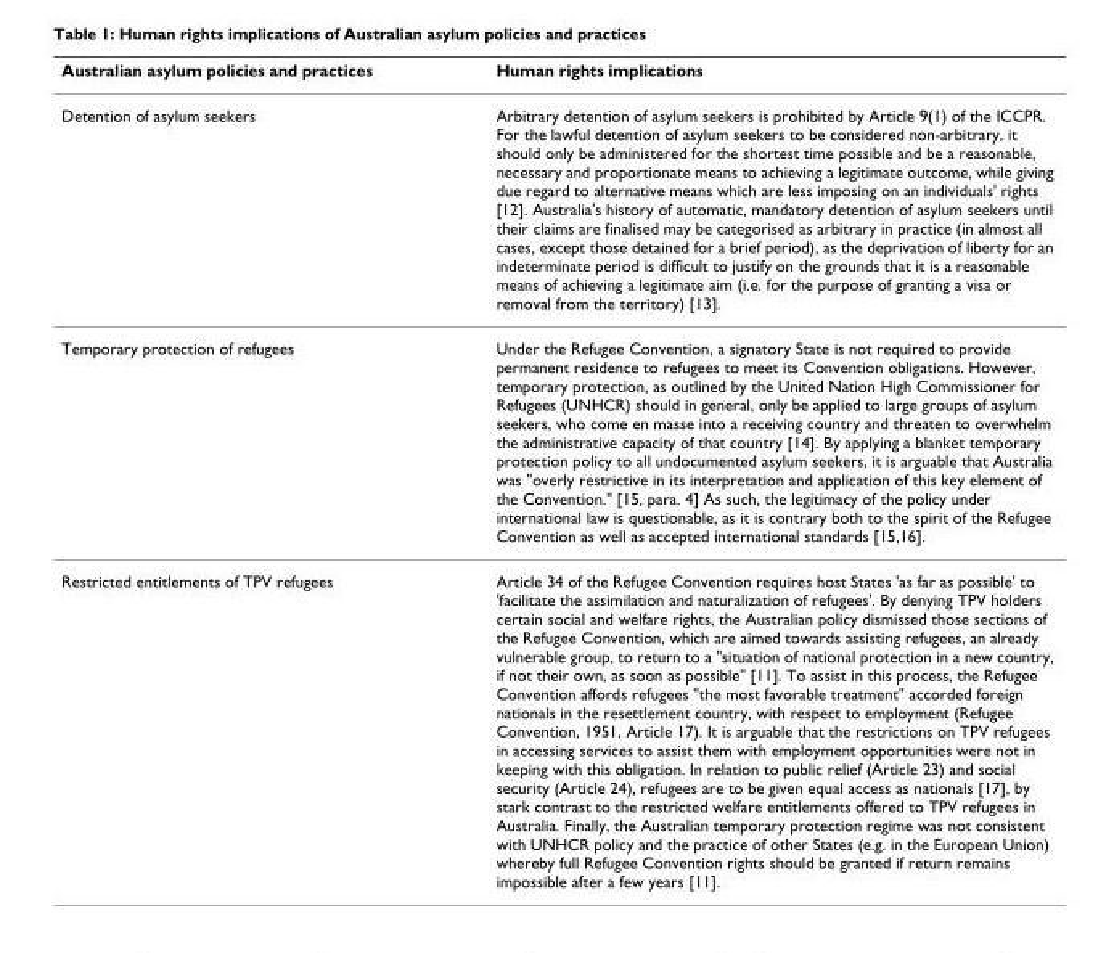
<table><thead><tr><td>Australian asylum policies and practices</td><td>Human rights implications</td></tr></thead><tbody><tr><td>Detention of asylum seekers</td><td>Arbitrary detention of asylum seekers is prohibited by Article 9(1) of the ICCPR. For the lawful detention of asylum seekers to be considered non-arbitrary, it should only be administered for the shortest time possible and be a reasonable, necessary and proportionate means to achieving a legitimate outcome, while giving due regard to alternative means which are less imposing on an individuals&#x27; rights [12]. Australia&#x27;s history of automatic, mandatory detention of asylum seekers until their claims are finalised may be categorised as arbitrary in practice (in almost all cases, except those detained for a brief period), as the deprivation of liberty for an indeterminate period is difficult to justify on the grounds that it is a reasonable means of achieving a legitimate aim (i.e. for the purpose of granting a visa or removal from the territory) [13].</td></tr><tr><td>Temporary protection of refugees</td><td>Under the Refugee Convention, a signatory State is not required to provide permanent residence to refugees to meet its Convention obligations. However, temporary protection, as outlined by the United Nation High Commissioner for Refugees (UNHCR) should in general, only be applied to large groups of asylum seekers, who come en masse into a receiving country and threaten to overwhelm the administrative capacity of that country [14]. By applying a blanket temporary protection policy to all undocumented asylum seekers, it is arguable that Australia was &quot;overly restrictive in its interpretation and application of this key element of the Convention.&quot; [15, para. 4] As such, the legitimacy of the policy under international law is questionable, as it is contrary both to the spirit of the Refugee Convention as well as accepted international standards [15,16].</td></tr><tr><td>Restricted entitlements of TPV refugees</td><td>Article 34 of the Refugee Convention requires host States &#x27;as far as possible&#x27; to &#x27;facilitate the assimilation and naturalization of refugees&#x27;. By denying TPV holders certain social and welfare rights, the Australian policy dismissed those sections of the Refugee Convention, which are aimed towards assisting refugees, an already vulnerable group, to return to a &quot;situation of national protection in a new country, if not their own, as soon as possible&quot; [11]. To assist in this process, the Refugee Convention affords refugees &quot;the most favorable treatment&quot; accorded foreign nationals in the resettlement country, with respect to employment (Refugee Convention, 1951, Article 17). It is arguable that the restrictions on TPV refugees in accessing services to assist them with employment opportunities were not in keeping with this obligation. In relation to public relief (Article 23) and social security (Article 24), refugees are to be given equal access as nationals [17], by stark contrast to the restricted welfare entitlements offered to TPV refugees in Australia. Finally, the Australian temporary protection regime was not consistent with UNHCR policy and the practice of other States (e.g. in the European Union) whereby full Refugee Convention rights should be granted if return remains impossible after a few years [11].</td></tr></tbody></table>